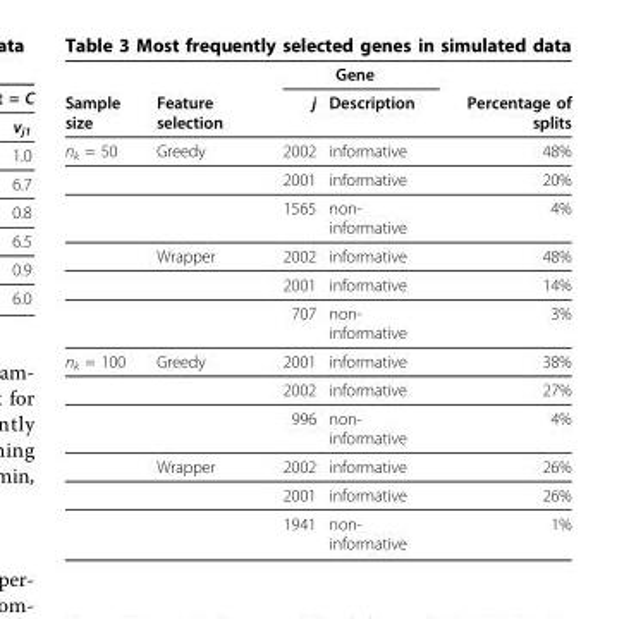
<table><thead><tr><td rowspan="2">Sample size</td><td rowspan="2">Feature selection</td><td colspan="2">Gene</td><td rowspan="2">Percentage of splits</td></tr><tr><td>j</td><td>Description</td></tr></thead><tbody><tr><td rowspan="6">n<sub>k</sub> = 50</td><td>Greedy</td><td>2002</td><td>informative</td><td>48%</td></tr><tr><td></td><td>2001</td><td>informative</td><td>20%</td></tr><tr><td></td><td>1565</td><td>non- informative</td><td>4%</td></tr><tr><td>Wrapper</td><td>2002</td><td>informative</td><td>48%</td></tr><tr><td></td><td>2001</td><td>informative</td><td>14%</td></tr><tr><td></td><td>707</td><td>non- informative</td><td>3%</td></tr><tr><td rowspan="6">n<sub>k</sub> = 100</td><td>Greedy</td><td>2001</td><td>informative</td><td>38%</td></tr><tr><td></td><td>2002</td><td>informative</td><td>27%</td></tr><tr><td></td><td>996</td><td>non- informative</td><td>4%</td></tr><tr><td>Wrapper</td><td>2002</td><td>informative</td><td>26%</td></tr><tr><td></td><td>2001</td><td>informative</td><td>26%</td></tr><tr><td></td><td>1941</td><td>non- informative</td><td>1%</td></tr></tbody></table>